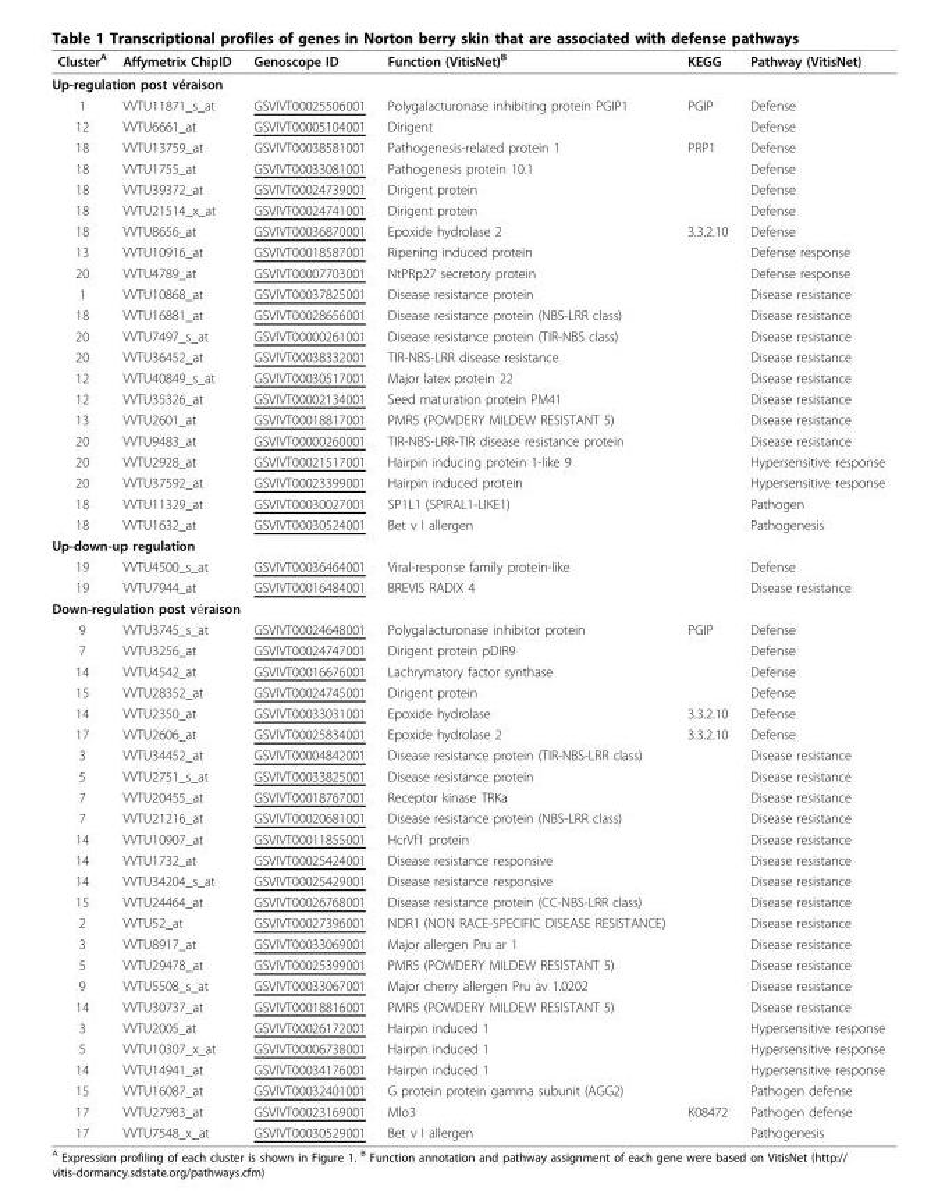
<table><thead><tr><td>Cluster<sup>A</sup></td><td>Affymetrix ChipID</td><td>Genoscope ID</td><td>Function (VitisNet)<sup>B</sup></td><td>KEGG</td><td>Pathway (VitisNet)</td></tr></thead><tbody><tr><td colspan="6">Up-regulation post véraison</td></tr><tr><td>1</td><td>VVTU11871_s_at</td><td>GSVIVT00025506001</td><td>Polygalacturonase inhibiting protein PGIP1</td><td>PGIP</td><td>Defense</td></tr><tr><td>12</td><td>VVTU6661_at</td><td>GSVIVT00005104001</td><td>Dirigent</td><td></td><td>Defense</td></tr><tr><td>18</td><td>VVTU13759_at</td><td>GSVIVT00038581001</td><td>Pathogenesis-related protein 1</td><td>PRP1</td><td>Defense</td></tr><tr><td>18</td><td>VVTU1755_at</td><td>GSVIVT00033081001</td><td>Pathogenesis protein 10.1</td><td></td><td>Defense</td></tr><tr><td>18</td><td>VVTU39372_at</td><td>GSVIVT00024739001</td><td>Dirigent protein</td><td></td><td>Defense</td></tr><tr><td>18</td><td>VVTU21514_x_at</td><td>GSVIVT00024741001</td><td>Dirigent protein</td><td></td><td>Defense</td></tr><tr><td>18</td><td>VVTU8656_at</td><td>GSVIVT00036870001</td><td>Epoxide hydrolase 2</td><td>3.3.2.10</td><td>Defense</td></tr><tr><td>13</td><td>VVTU10916_at</td><td>GSVIVT00018587001</td><td>Ripening induced protein</td><td></td><td>Defense response</td></tr><tr><td>20</td><td>VVTU4789_at</td><td>GSVIVT00007703001</td><td>NtPRp27 secretory protein</td><td></td><td>Defense response</td></tr><tr><td>1</td><td>VVTU10868_at</td><td>GSVIVT00037825001</td><td>Disease resistance protein</td><td></td><td>Disease resistance</td></tr><tr><td>18</td><td>VVTU16881_at</td><td>GSVIVT00028656001</td><td>Disease resistance protein (NBS-LRR class)</td><td></td><td>Disease resistance</td></tr><tr><td>20</td><td>VVTU7497_s_at</td><td>GSVIVT00000261001</td><td>Disease resistance protein (TIR-NBS class)</td><td></td><td>Disease resistance</td></tr><tr><td>20</td><td>VVTU36452_at</td><td>GSVIVT00038332001</td><td>TIR-NBS-LRR disease resistance</td><td></td><td>Disease resistance</td></tr><tr><td>12</td><td>VVTU40849_s_at</td><td>GSVIVT00030517001</td><td>Major latex protein 22</td><td></td><td>Disease resistance</td></tr><tr><td>12</td><td>VVTU35326_at</td><td>GSVIVT00002134001</td><td>Seed maturation protein PM41</td><td></td><td>Disease resistance</td></tr><tr><td>13</td><td>VVTU2601_at</td><td>GSVIVT00018817001</td><td>PMR5 (POWDERY MILDEW RESISTANT 5)</td><td></td><td>Disease resistance</td></tr><tr><td>20</td><td>VVTU9483_at</td><td>GSVIVT00000260001</td><td>TIR-NBS-LRR-TIR disease resistance protein</td><td></td><td>Disease resistance</td></tr><tr><td>20</td><td>VVTU2928_at</td><td>GSVIVT00021517001</td><td>Hairpin inducing protein 1-like 9</td><td></td><td>Hypersensitive response</td></tr><tr><td>20</td><td>VVTU37592_at</td><td>GSVIVT00023399001</td><td>Hairpin induced protein</td><td></td><td>Hypersensitive response</td></tr><tr><td>18</td><td>VVTU11329_at</td><td>GSVIVT00030027001</td><td>SP1L1 (SPIRAL1-LIKE1)</td><td></td><td>Pathogen</td></tr><tr><td>18</td><td>VVTU1632_at</td><td>GSVIVT00030524001</td><td>Bet v I allergen</td><td></td><td>Pathogenesis</td></tr><tr><td colspan="6">Up-down-up regulation</td></tr><tr><td>19</td><td>VVTU4500_s_at</td><td>GSVIVT00036464001</td><td>Viral-response family protein-like</td><td></td><td>Defense</td></tr><tr><td>19</td><td>VVTU7944_at</td><td>GSVIVT00016484001</td><td>BREVIS RADIX 4</td><td></td><td>Disease resistance</td></tr><tr><td colspan="6">Down-regulation post véraison</td></tr><tr><td>9</td><td>VVTU3745_s_at</td><td>GSVIVT00024648001</td><td>Polygalacturonase inhibitor protein</td><td>PGIP</td><td>Defense</td></tr><tr><td>7</td><td>VVTU3256_at</td><td>GSVIVT00024747001</td><td>Dirigent protein pDIR9</td><td></td><td>Defense</td></tr><tr><td>14</td><td>VVTU4542_at</td><td>GSVIVT00016676001</td><td>Lachrymatory factor synthase</td><td></td><td>Defense</td></tr><tr><td>15</td><td>VVTU28352_at</td><td>GSVIVT00024745001</td><td>Dirigent protein</td><td></td><td>Defense</td></tr><tr><td>14</td><td>VVTU2350_at</td><td>GSVIVT00033031001</td><td>Epoxide hydrolase</td><td>3.3.2.10</td><td>Defense</td></tr><tr><td>17</td><td>VVTU2606_at</td><td>GSVIVT00025834001</td><td>Epoxide hydrolase 2</td><td>3.3.2.10</td><td>Defense</td></tr><tr><td>3</td><td>VVTU34452_at</td><td>GSVIVT00004842001</td><td>Disease resistance protein (TIR-NBS-LRR class)</td><td></td><td>Disease resistance</td></tr><tr><td>5</td><td>VVTU2751_s_at</td><td>GSVIVT00033825001</td><td>Disease resistance protein</td><td></td><td>Disease resistance</td></tr><tr><td>7</td><td>VVTU20455_at</td><td>GSVIVT00018767001</td><td>Receptor kinase TRKa</td><td></td><td>Disease resistance</td></tr><tr><td>7</td><td>VVTU21216_at</td><td>GSVIVT00020681001</td><td>Disease resistance protein (NBS-LRR class)</td><td></td><td>Disease resistance</td></tr><tr><td>14</td><td>VVTU10907_at</td><td>GSVIVT00011855001</td><td>HcrVf1 protein</td><td></td><td>Disease resistance</td></tr><tr><td>14</td><td>VVTU1732_at</td><td>GSVIVT00025424001</td><td>Disease resistance responsive</td><td></td><td>Disease resistance</td></tr><tr><td>14</td><td>VVTU34204_s_at</td><td>GSVIVT00025429001</td><td>Disease resistance responsive</td><td></td><td>Disease resistance</td></tr><tr><td>15</td><td>VVTU24464_at</td><td>GSVIVT00026768001</td><td>Disease resistance protein (CC-NBS-LRR class)</td><td></td><td>Disease resistance</td></tr><tr><td>2</td><td>VVTU52_at</td><td>GSVIVT00027396001</td><td>NDR1 (NON RACE-SPECIFIC DISEASE RESISTANCE)</td><td></td><td>Disease resistance</td></tr><tr><td>3</td><td>VVTU8917_at</td><td>GSVIVT00033069001</td><td>Major allergen Pru ar 1</td><td></td><td>Disease resistance</td></tr><tr><td>5</td><td>VVTU29478_at</td><td>GSVIVT00025399001</td><td>PMR5 (POWDERY MILDEW RESISTANT 5)</td><td></td><td>Disease resistance</td></tr><tr><td>9</td><td>VVTU5508_s_at</td><td>GSVIVT00033067001</td><td>Major cherry allergen Pru av 1.0202</td><td></td><td>Disease resistance</td></tr><tr><td>14</td><td>VVTU30737_at</td><td>GSVIVT00018816001</td><td>PMR5 (POWDERY MILDEW RESISTANT 5)</td><td></td><td>Disease resistance</td></tr><tr><td>3</td><td>VVTU2005_at</td><td>GSVIVT00026172001</td><td>Hairpin induced 1</td><td></td><td>Hypersensitive response</td></tr><tr><td>5</td><td>VVTU10307_x_at</td><td>GSVIVT00006738001</td><td>Hairpin induced 1</td><td></td><td>Hypersensitive response</td></tr><tr><td>14</td><td>VVTU14941_at</td><td>GSVIVT00034176001</td><td>Hairpin induced 1</td><td></td><td>Hypersensitive response</td></tr><tr><td>15</td><td>VVTU16087_at</td><td>GSVIVT00032401001</td><td>G protein protein gamma subunit (AGG2)</td><td></td><td>Pathogen defense</td></tr><tr><td>17</td><td>VVTU27983_at</td><td>GSVIVT00023169001</td><td>Mlo3</td><td>K08472</td><td>Pathogen defense</td></tr><tr><td>17</td><td>VVTU7548_x_at</td><td>GSVIVT00030529001</td><td>Bet v I allergen</td><td></td><td>Pathogenesis</td></tr></tbody></table>